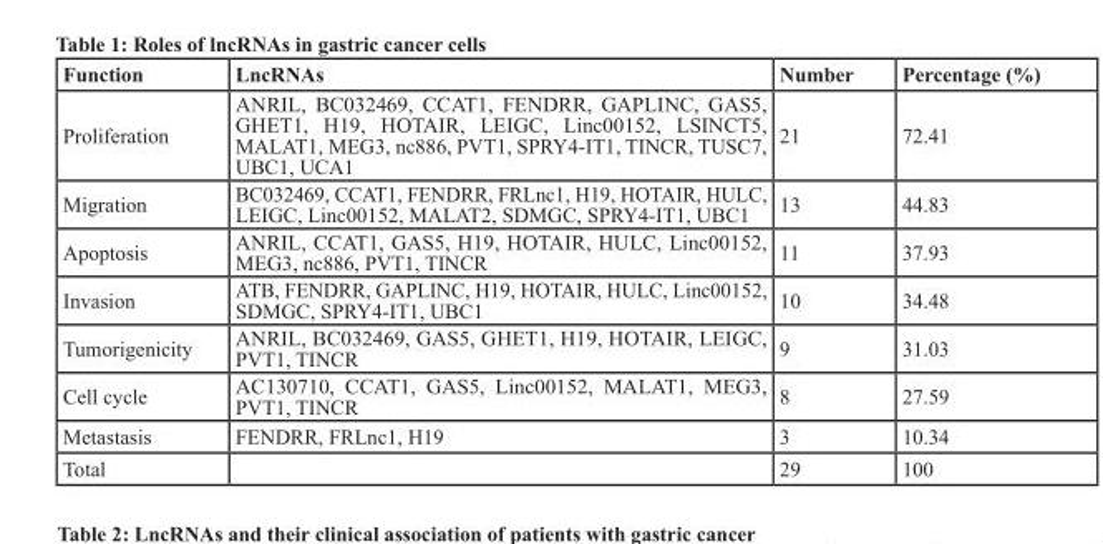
<table><thead><tr><td>Function</td><td>LncRNAs</td><td>Number</td><td>Percentage (%)</td></tr></thead><tbody><tr><td>Proliferation</td><td>ANRIL, BC032469, CCAT1, FENDRR, GAPLINC, GAS5, GHET1, H19, HOTAIR, LEIGC, Linc00152, LSINCT5, MALAT1, MEG3, nc886, PVT1, SPRY4-IT1, TINCR, TUSC7, UBC1, UCA1</td><td>21</td><td>72.41</td></tr><tr><td>Migration</td><td>BC032469, CCAT1, FENDRR, FRLnc1, H19, HOTAIR, HULC, LEIGC, Linc00152, MALAT2, SDMGC, SPRY4-IT1, UBC1</td><td>13</td><td>44.83</td></tr><tr><td>Apoptosis</td><td>ANRIL, CCAT1, GAS5, H19, HOTAIR, HULC, Linc00152, MEG3, nc886, PVT1, TINCR</td><td>11</td><td>37.93</td></tr><tr><td>Invasion</td><td>ATB, FENDRR, GAPLINC, H19, HOTAIR, HULC, Linc00152, SDMGC, SPRY4-IT1, UBC1</td><td>10</td><td>34.48</td></tr><tr><td>Tumorigenicity</td><td>ANRIL, BC032469, GAS5, GHET1, H19, HOTAIR, LEIGC, PVT1, TINCR</td><td>9</td><td>31.03</td></tr><tr><td>Cell cycle</td><td>AC130710, CCAT1, GAS5, Linc00152, MALAT1, MEG3, PVT1, TINCR</td><td>8</td><td>27.59</td></tr><tr><td>Metastasis</td><td>FENDRR, FRLnc1, H19</td><td>3</td><td>10.34</td></tr><tr><td>Total</td><td></td><td>29</td><td>100</td></tr></tbody></table>